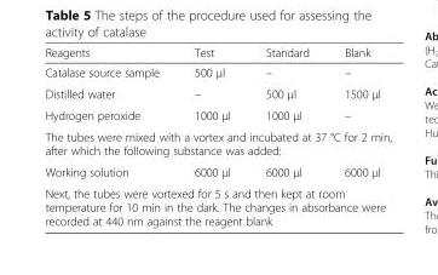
<table><thead><tr><td>Reagents</td><td>Test</td><td>Standard</td><td>Blank</td></tr></thead><tbody><tr><td>Catalase source sample</td><td>500 μl</td><td>–</td><td>–</td></tr><tr><td>Distilled water</td><td>–</td><td>500 μl</td><td>1500 μl</td></tr><tr><td>Hydrogen peroxide</td><td>1000 μl</td><td>1000 μl</td><td>–</td></tr><tr><td colspan="4">The tubes were mixed with a vortex and incubated at 37 °C for 2 min, after which the following substance was added:</td></tr><tr><td>Working solution</td><td>6000 μl</td><td>6000 μl</td><td>6000 μl</td></tr><tr><td colspan="4">Next, the tubes were vortexed for 5 s and then kept at room temperature for 10 min in the dark. The changes in absorbance were recorded at 440 nm against the reagent blank</td></tr></tbody></table>